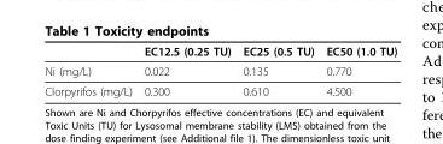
<table><thead><tr><td></td><td>EC12.5 (0.25 TU)</td><td>EC25 (0.5 TU)</td><td>EC50 (1.0 TU)</td></tr></thead><tbody><tr><td>Ni (mg/L)</td><td>0.022</td><td>0.135</td><td>0.770</td></tr><tr><td>Clorpyrifos (mg/L)</td><td>0.300</td><td>0.610</td><td>4.500</td></tr></tbody></table>